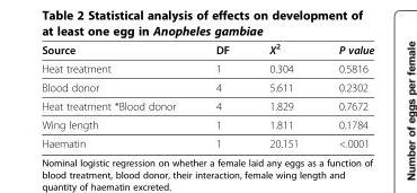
<table><thead><tr><td>Source</td><td>DF</td><td>X<sup>2</sup></td><td>P value</td></tr></thead><tbody><tr><td>Heat treatment</td><td>1</td><td>0.304</td><td>0.5816</td></tr><tr><td>Blood donor</td><td>4</td><td>5.611</td><td>0.2302</td></tr><tr><td>Heat treatment *Blood donor</td><td>4</td><td>1.829</td><td>0.7672</td></tr><tr><td>Wing length</td><td>1</td><td>1.811</td><td>0.1784</td></tr><tr><td>Haematin</td><td>1</td><td>20.151</td><td>&lt;.0001</td></tr></tbody></table>